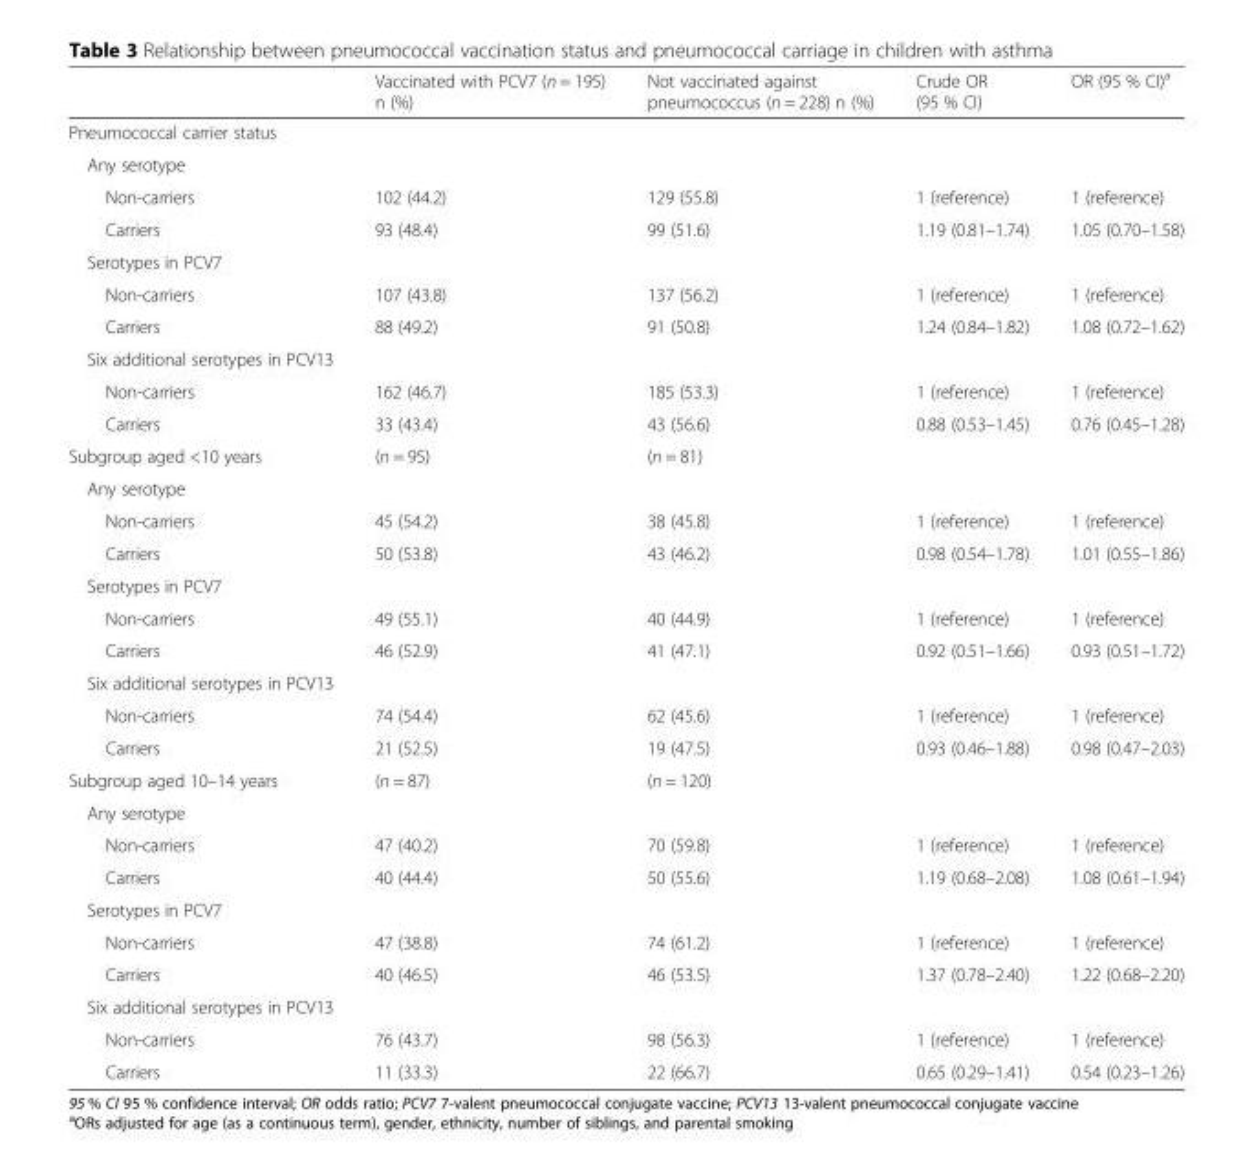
<table><thead><tr><td></td><td>Vaccinated with PCV7 (n = 195) n (%)</td><td>Not vaccinated against pneumococcus (n = 228) n (%)</td><td>Crude OR (95 % CI)</td><td>OR (95 % CI)<sup>a</sup></td></tr></thead><tbody><tr><td colspan="5">Pneumococcal carrier status</td></tr><tr><td colspan="5">Any serotype</td></tr><tr><td>Non-carriers</td><td>102 (44.2)</td><td>129 (55.8)</td><td>1 (reference)</td><td>1 (reference)</td></tr><tr><td>Carriers</td><td>93 (48.4)</td><td>99 (51.6)</td><td>1.19 (0.81–1.74)</td><td>1.05 (0.70–1.58)</td></tr><tr><td colspan="5">Serotypes in PCV7</td></tr><tr><td>Non-carriers</td><td>107 (43.8)</td><td>137 (56.2)</td><td>1 (reference)</td><td>1 (reference)</td></tr><tr><td>Carriers</td><td>88 (49.2)</td><td>91 (50.8)</td><td>1.24 (0.84–1.82)</td><td>1.08 (0.72–1.62)</td></tr><tr><td colspan="5">Six additional serotypes in PCV13</td></tr><tr><td>Non-carriers</td><td>162 (46.7)</td><td>185 (53.3)</td><td>1 (reference)</td><td>1 (reference)</td></tr><tr><td>Carriers</td><td>33 (43.4)</td><td>43 (56.6)</td><td>0.88 (0.53–1.45)</td><td>0.76 (0.45–1.28)</td></tr><tr><td>Subgroup aged &lt;10 years</td><td>(n = 95)</td><td>(n = 81)</td><td></td><td></td></tr><tr><td colspan="5">Any serotype</td></tr><tr><td>Non-carriers</td><td>45 (54.2)</td><td>38 (45.8)</td><td>1 (reference)</td><td>1 (reference)</td></tr><tr><td>Carriers</td><td>50 (53.8)</td><td>43 (46.2)</td><td>0.98 (0.54–1.78)</td><td>1.01 (0.55–1.86)</td></tr><tr><td colspan="5">Serotypes in PCV7</td></tr><tr><td>Non-carriers</td><td>49 (55.1)</td><td>40 (44.9)</td><td>1 (reference)</td><td>1 (reference)</td></tr><tr><td>Carriers</td><td>46 (52.9)</td><td>41 (47.1)</td><td>0.92 (0.51–1.66)</td><td>0.93 (0.51–1.72)</td></tr><tr><td colspan="5">Six additional serotypes in PCV13</td></tr><tr><td>Non-carriers</td><td>74 (54.4)</td><td>62 (45.6)</td><td>1 (reference)</td><td>1 (reference)</td></tr><tr><td>Carriers</td><td>21 (52.5)</td><td>19 (47.5)</td><td>0.93 (0.46–1.88)</td><td>0.98 (0.47–2.03)</td></tr><tr><td>Subgroup aged 10–14 years</td><td>(n = 87)</td><td>(n = 120)</td><td></td><td></td></tr><tr><td colspan="5">Any serotype</td></tr><tr><td>Non-carriers</td><td>47 (40.2)</td><td>70 (59.8)</td><td>1 (reference)</td><td>1 (reference)</td></tr><tr><td>Carriers</td><td>40 (44.4)</td><td>50 (55.6)</td><td>1.19 (0.68–2.08)</td><td>1.08 (0.61–1.94)</td></tr><tr><td colspan="5">Serotypes in PCV7</td></tr><tr><td>Non-carriers</td><td>47 (38.8)</td><td>74 (61.2)</td><td>1 (reference)</td><td>1 (reference)</td></tr><tr><td>Carriers</td><td>40 (46.5)</td><td>46 (53.5)</td><td>1.37 (0.78–2.40)</td><td>1.22 (0.68–2.20)</td></tr><tr><td colspan="5">Six additional serotypes in PCV13</td></tr><tr><td>Non-carriers</td><td>76 (43.7)</td><td>98 (56.3)</td><td>1 (reference)</td><td>1 (reference)</td></tr><tr><td>Carriers</td><td>11 (33.3)</td><td>22 (66.7)</td><td>0.65 (0.29–1.41)</td><td>0.54 (0.23–1.26)</td></tr></tbody></table>